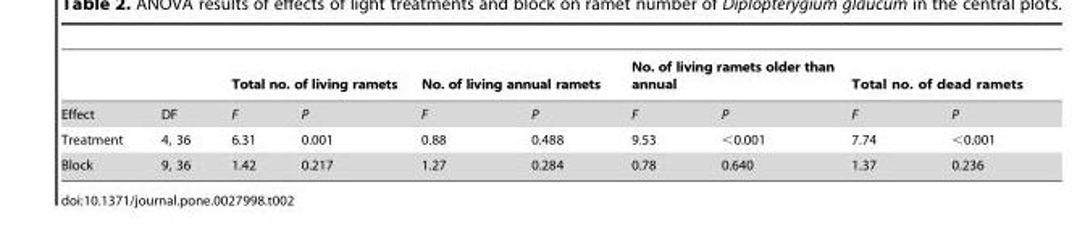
<table><thead><tr><td rowspan="2">Effect</td><td rowspan="2">DF</td><td colspan="2">Total no. of living ramets</td><td colspan="2">No. of living annual ramets</td><td colspan="2">No. of living ramets older than annual</td><td colspan="2">Total no. of dead ramets</td></tr><tr><td>F</td><td>P</td><td>F</td><td>P</td><td>F</td><td>P</td><td>F</td><td>P</td></tr></thead><tbody><tr><td>Treatment</td><td>4, 36</td><td>6.31</td><td>0.001</td><td>0.88</td><td>0.488</td><td>9.53</td><td>&lt;0.001</td><td>7.74</td><td>&lt;0.001</td></tr><tr><td>Block</td><td>9, 36</td><td>1.42</td><td>0.217</td><td>1.27</td><td>0.284</td><td>0.78</td><td>0.640</td><td>1.37</td><td>0.236</td></tr></tbody></table>